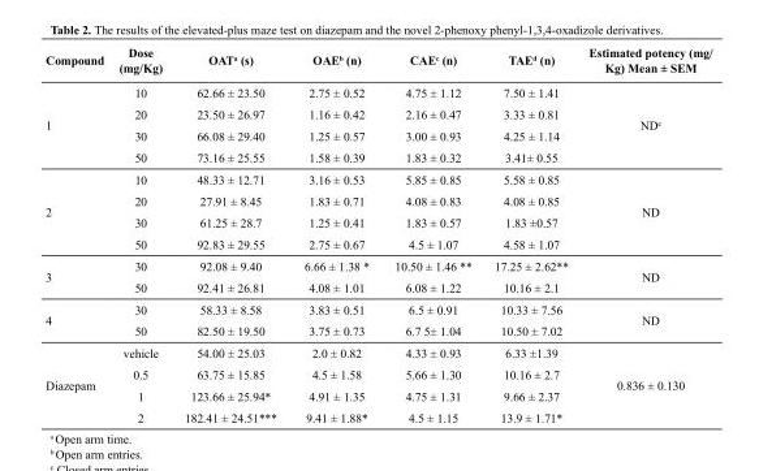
<table><thead><tr><td>Compound</td><td>Dose (mg/Kg)</td><td>OATa (s)</td><td>OAEb (n)</td><td>CAEc (n)</td><td>TAEd (n)</td><td>Estimated potency (mg/ Kg) Mean ± SEM</td></tr></thead><tbody><tr><td rowspan="4">1</td><td>10</td><td>62.66 ± 23.50</td><td>2.75 ± 0.52</td><td>4.75 ± 1.12</td><td>7.50 ± 1.41</td><td rowspan="4">ND<sup>e</sup></td></tr><tr><td>20</td><td>23.50 ± 26.97</td><td>1.16 ± 0.42</td><td>2.16 ± 0.47</td><td>3.33 ± 0.81</td></tr><tr><td>30</td><td>66.08 ± 29.40</td><td>1.25 ± 0.57</td><td>3.00 ± 0.93</td><td>4.25 ± 1.14</td></tr><tr><td>50</td><td>73.16 ± 25.55</td><td>1.58 ± 0.39</td><td>1.83 ± 0.32</td><td>3.41± 0.55</td></tr><tr><td rowspan="4">2</td><td>10</td><td>48.33 ± 12.71</td><td>3.16 ± 0.53</td><td>5.85 ± 0.85</td><td>5.58 ± 0.85</td><td rowspan="4">ND</td></tr><tr><td>20</td><td>27.91 ± 8.45</td><td>1.83 ± 0.71</td><td>4.08 ± 0.83</td><td>4.08 ± 0.85</td></tr><tr><td>30</td><td>61.25 ± 28.7</td><td>1.25 ± 0.41</td><td>1.83 ± 0.57</td><td>1.83 ±0.57</td></tr><tr><td>50</td><td>92.83 ± 29.55</td><td>2.75 ± 0.67</td><td>4.5 ± 1.07</td><td>4.58 ± 1.07</td></tr><tr><td rowspan="2">3</td><td>30</td><td>92.08 ± 9.40</td><td>6.66 ± 1.38 *</td><td>10.50 ± 1.46 **</td><td>17.25 ± 2.62**</td><td rowspan="2">ND</td></tr><tr><td>50</td><td>92.41 ± 26.81</td><td>4.08 ± 1.01</td><td>6.08 ± 1.22</td><td>10.16 ± 2.1</td></tr><tr><td rowspan="2">4</td><td>30</td><td>58.33 ± 8.58</td><td>3.83 ± 0.51</td><td>6.5 ± 0.91</td><td>10.33 ± 7.56</td><td rowspan="2">ND</td></tr><tr><td>50</td><td>82.50 ± 19.50</td><td>3.75 ± 0.73</td><td>6.7 5± 1.04</td><td>10.50 ± 7.02</td></tr><tr><td rowspan="4">Diazepam</td><td>vehicle</td><td>54.00 ± 25.03</td><td>2.0 ± 0.82</td><td>4.33 ± 0.93</td><td>6.33 ±1.39</td><td rowspan="4">0.836 ± 0.130</td></tr><tr><td>0.5</td><td>63.75 ± 15.85</td><td>4.5 ± 1.58</td><td>5.66 ± 1.30</td><td>10.16 ± 2.7</td></tr><tr><td>1</td><td>123.66 ± 25.94*</td><td>4.91 ± 1.35</td><td>4.75 ± 1.31</td><td>9.66 ± 2.37</td></tr><tr><td>2</td><td>182.41 ± 24.51***</td><td>9.41 ± 1.88*</td><td>4.5 ± 1.15</td><td>13.9 ± 1.71*</td></tr></tbody></table>